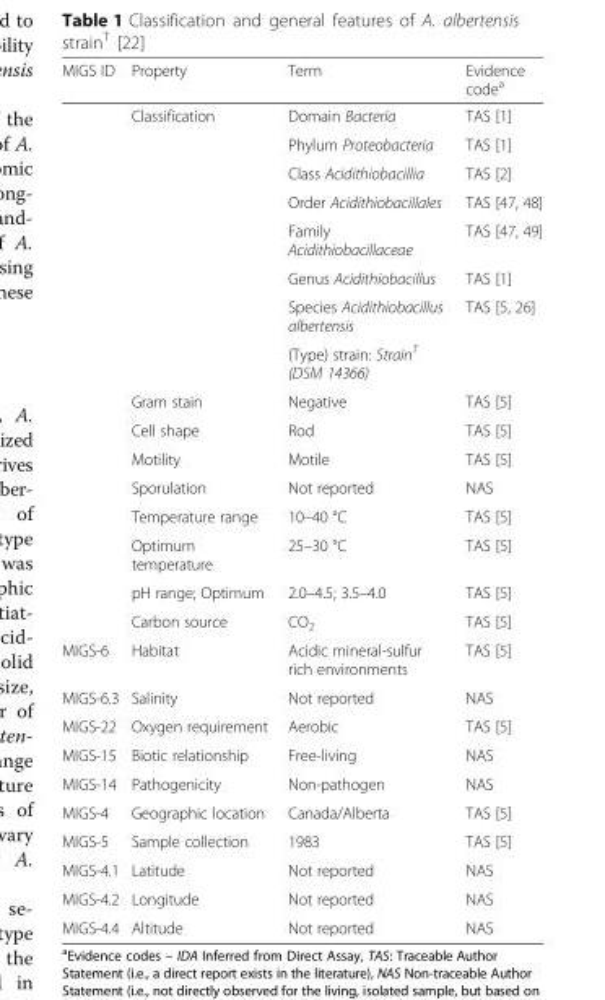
<table><thead><tr><td>MIGS ID</td><td>Property</td><td>Term</td><td>Evidence code<sup>a</sup></td></tr></thead><tbody><tr><td></td><td>Classification</td><td>Domain Bacteria</td><td>TAS [1]</td></tr><tr><td></td><td></td><td>Phylum Proteobacteria</td><td>TAS [1]</td></tr><tr><td></td><td></td><td>Class Acidithiobacillia</td><td>TAS [2]</td></tr><tr><td></td><td></td><td>Order Acidithiobacillales</td><td>TAS [47, 48]</td></tr><tr><td></td><td></td><td>Family Acidithiobacillaceae</td><td>TAS [47, 49]</td></tr><tr><td></td><td></td><td>Genus Acidithiobacillus</td><td>TAS [1]</td></tr><tr><td></td><td></td><td>Species Acidithiobacillus albertensis</td><td>TAS [5, 26]</td></tr><tr><td></td><td></td><td>(Type) strain: Strain<sup>T</sup> (DSM 14366)</td><td></td></tr><tr><td></td><td>Gram stain</td><td>Negative</td><td>TAS [5]</td></tr><tr><td></td><td>Cell shape</td><td>Rod</td><td>TAS [5]</td></tr><tr><td></td><td>Motility</td><td>Motile</td><td>TAS [5]</td></tr><tr><td></td><td>Sporulation</td><td>Not reported</td><td>NAS</td></tr><tr><td></td><td>Temperature range</td><td>10–40 °C</td><td>TAS [5]</td></tr><tr><td></td><td>Optimum temperature</td><td>25–30 °C</td><td>TAS [5]</td></tr><tr><td></td><td>pH range; Optimum</td><td>2.0–4.5; 3.5–4.0</td><td>TAS [5]</td></tr><tr><td></td><td>Carbon source</td><td>CO<sub>2</sub></td><td>TAS [5]</td></tr><tr><td>MIGS-6</td><td>Habitat</td><td>Acidic mineral-sulfur rich environments</td><td>TAS [5]</td></tr><tr><td>MIGS-6.3</td><td>Salinity</td><td>Not reported</td><td>NAS</td></tr><tr><td>MIGS-22</td><td>Oxygen requirement</td><td>Aerobic</td><td>TAS [5]</td></tr><tr><td>MIGS-15</td><td>Biotic relationship</td><td>Free-living</td><td>NAS</td></tr><tr><td>MIGS-14</td><td>Pathogenicity</td><td>Non-pathogen</td><td>NAS</td></tr><tr><td>MIGS-4</td><td>Geographic location</td><td>Canada/Alberta</td><td>TAS [5]</td></tr><tr><td>MIGS-5</td><td>Sample collection</td><td>1983</td><td>TAS [5]</td></tr><tr><td>MIGS-4.1</td><td>Latitude</td><td>Not reported</td><td>NAS</td></tr><tr><td>MIGS-4.2</td><td>Longitude</td><td>Not reported</td><td>NAS</td></tr><tr><td>MIGS-4.4</td><td>Altitude</td><td>Not reported</td><td>NAS</td></tr></tbody></table>